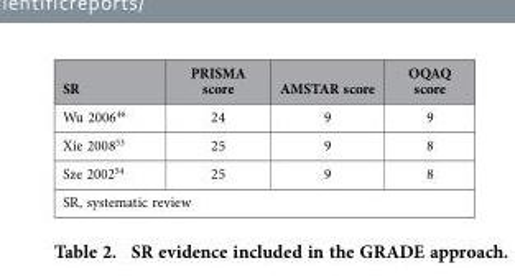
<table><thead><tr><td>SR</td><td>PRISMA score</td><td>AMSTAR score</td><td>OQAQ score</td></tr></thead><tbody><tr><td>Wu 2006<sup>46</sup></td><td>24</td><td>9</td><td>9</td></tr><tr><td>Xie 2008<sup>53</sup></td><td>25</td><td>9</td><td>8</td></tr><tr><td>Sze 2002<sup>54</sup></td><td>25</td><td>9</td><td>8</td></tr><tr><td colspan="4">SR, systematic review</td></tr></tbody></table>